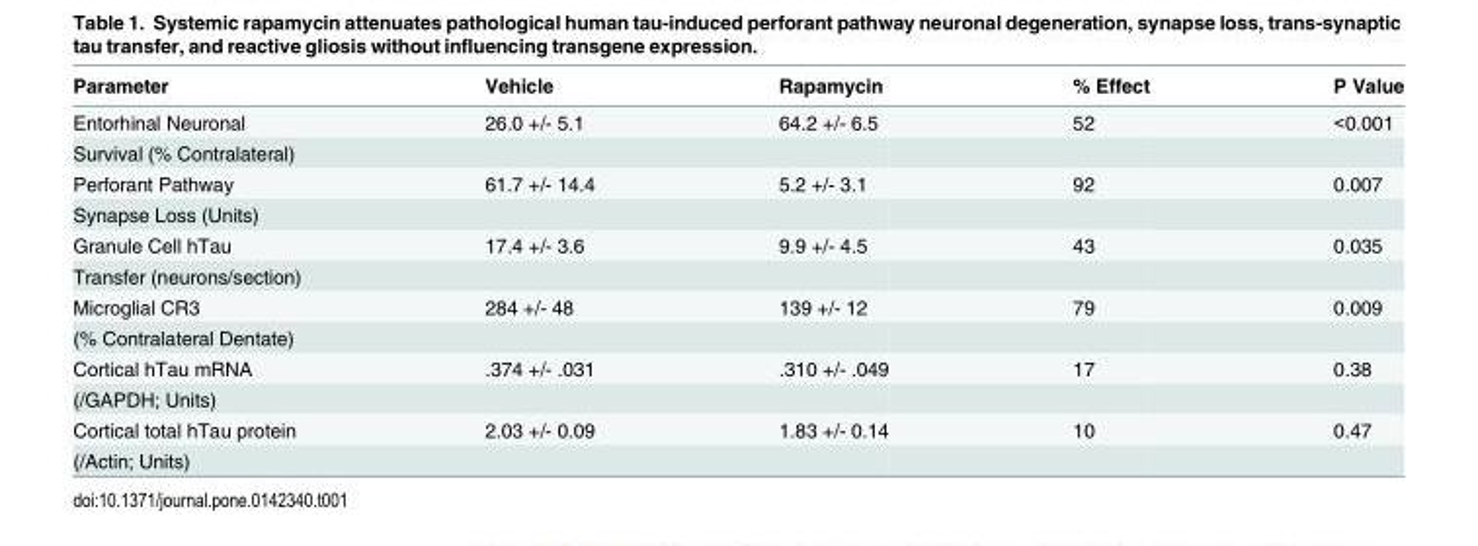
<table><thead><tr><td>Parameter</td><td>Vehicle</td><td>Rapamycin</td><td>% Effect</td><td>P Value</td></tr></thead><tbody><tr><td>Entorhinal Neuronal</td><td>26.0 +/- 5.1</td><td>64.2 +/- 6.5</td><td>52</td><td>&lt;0.001</td></tr><tr><td colspan="5">Survival (% Contralateral)</td></tr><tr><td>Perforant Pathway</td><td>61.7 +/- 14.4</td><td>5.2 +/- 3.1</td><td>92</td><td>0.007</td></tr><tr><td colspan="5">Synapse Loss (Units)</td></tr><tr><td>Granule Cell hTau</td><td>17.4 +/- 3.6</td><td>9.9 +/- 4.5</td><td>43</td><td>0.035</td></tr><tr><td colspan="5">Transfer (neurons/section)</td></tr><tr><td>Microglial CR3</td><td>284 +/- 48</td><td>139 +/- 12</td><td>79</td><td>0.009</td></tr><tr><td colspan="5">(% Contralateral Dentate)</td></tr><tr><td>Cortical hTau mRNA</td><td>.374 +/- .031</td><td>.310 +/- .049</td><td>17</td><td>0.38</td></tr><tr><td colspan="5">(/GAPDH; Units)</td></tr><tr><td>Cortical total hTau protein</td><td>2.03 +/- 0.09</td><td>1.83 +/- 0.14</td><td>10</td><td>0.47</td></tr><tr><td>(/Actin; Units)</td><td></td><td></td><td></td><td></td></tr></tbody></table>